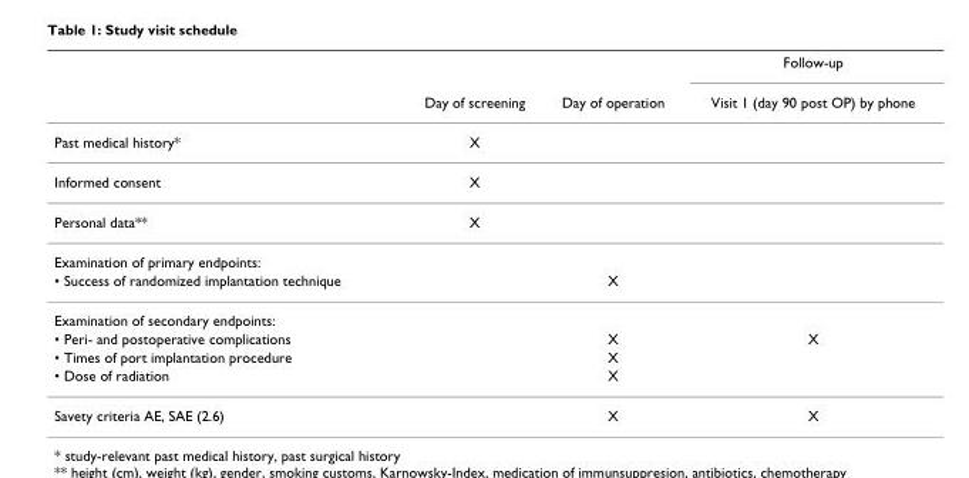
<table><thead><tr><td rowspan="2"></td><td rowspan="2">Day of screening</td><td rowspan="2">Day of operation</td><td rowspan="2">Follow-up Visit 1 (day 90 post OP) by phone</td></tr><tr></tr></thead><tbody><tr><td>Past medical history*</td><td>X</td><td></td><td></td></tr><tr><td>Informed consent</td><td>X</td><td></td><td></td></tr><tr><td>Personal data**</td><td>X</td><td></td><td></td></tr><tr><td colspan="4">Examination of primary endpoints:</td></tr><tr><td>• Success of randomized implantation technique</td><td></td><td>X</td><td></td></tr><tr><td colspan="4">Examination of secondary endpoints:</td></tr><tr><td>• Peri- and postoperative complications</td><td></td><td>X</td><td>X</td></tr><tr><td>• Times of port implantation procedure</td><td></td><td>X</td><td></td></tr><tr><td>• Dose of radiation</td><td></td><td>X</td><td></td></tr><tr><td>Savety criteria AE, SAE (2.6)</td><td></td><td>X</td><td>X</td></tr></tbody></table>